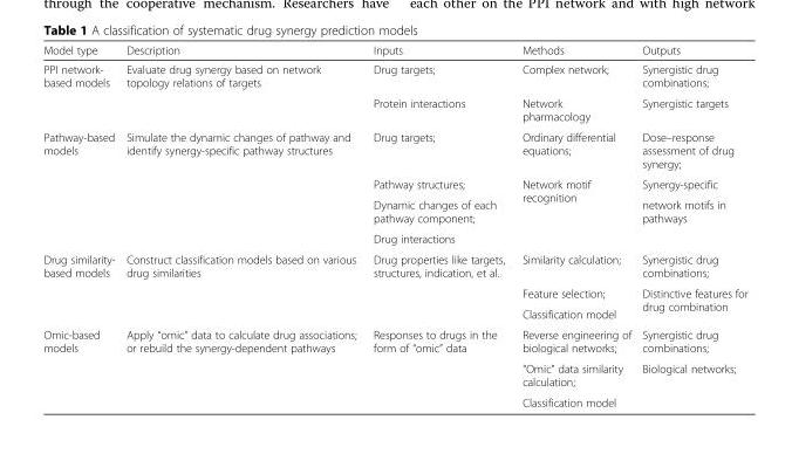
<table><thead><tr><td>Model type</td><td>Description</td><td>Inputs</td><td>Methods</td><td>Outputs</td></tr></thead><tbody><tr><td rowspan="2">PPI network- based models</td><td rowspan="2">Evaluate drug synergy based on network topology relations of targets</td><td>Drug targets;</td><td>Complex network;</td><td>Synergistic drug combinations;</td></tr><tr><td>Protein interactions</td><td>Network pharmacology</td><td>Synergistic targets</td></tr><tr><td rowspan="4">Pathway-based models</td><td rowspan="4">Simulate the dynamic changes of pathway and identify synergy-specific pathway structures</td><td>Drug targets;</td><td>Ordinary differential equations;</td><td>Dose–response assessment of drug synergy;</td></tr><tr><td>Pathway structures;</td><td rowspan="3">Network motif recognition</td><td>Synergy-specific</td></tr><tr><td>Dynamic changes of each pathway component;</td><td rowspan="2">network motifs in pathways</td></tr><tr><td>Drug interactions</td></tr><tr><td rowspan="3">Drug similarity- based models</td><td rowspan="3">Construct classification models based on various drug similarities</td><td rowspan="3">Drug properties like targets, structures, indication, et al.</td><td>Similarity calculation;</td><td>Synergistic drug combinations;</td></tr><tr><td>Feature selection;</td><td rowspan="2">Distinctive features for drug combination</td></tr><tr><td>Classification model</td></tr><tr><td rowspan="3">Omic-based models</td><td rowspan="3">Apply “omic” data to calculate drug associations; or rebuild the synergy-dependent pathways</td><td rowspan="3">Responses to drugs in the form of “omic” data</td><td>Reverse engineering of biological networks;</td><td>Synergistic drug combinations;</td></tr><tr><td>“Omic” data similarity calculation;</td><td rowspan="2">Biological networks;</td></tr><tr><td>Classification model</td></tr></tbody></table>